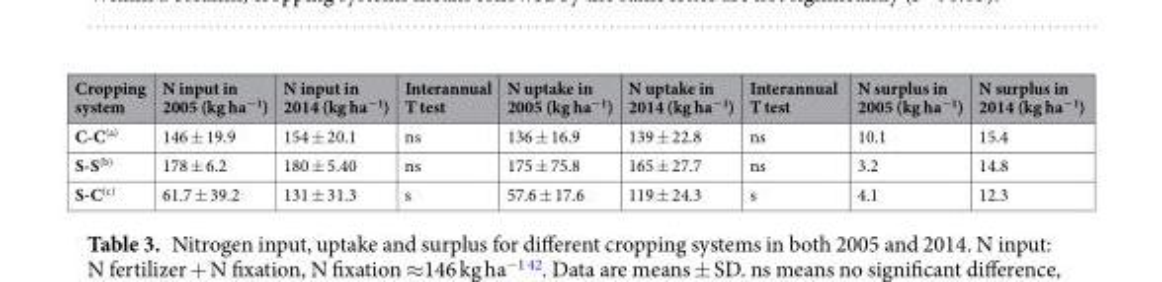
<table><thead><tr><td>Cropping system</td><td>N input in 2005 (kg ha<sup>−1</sup>)</td><td>N input in 2014 (kg ha<sup>−1</sup>)</td><td>Interannual T test</td><td>N uptake in 2005 (kg ha<sup>−1</sup>)</td><td>N uptake in 2014 (kg ha<sup>−1</sup>)</td><td>Interannual T test</td><td>N surplus in 2005 (kg ha<sup>−1</sup>)</td><td>N surplus in 2014 (kg ha<sup>−1</sup>)</td></tr></thead><tbody><tr><td>C-C<sup>(a)</sup></td><td>146 ± 19.9</td><td>154 ± 20.1</td><td>ns</td><td>136 ± 16.9</td><td>139 ± 22.8</td><td>ns</td><td>10.1</td><td>15.4</td></tr><tr><td>S-S<sup>(b)</sup></td><td>178 ± 6.2</td><td>180 ± 5.40</td><td>ns</td><td>175 ± 75.8</td><td>165 ± 27.7</td><td>ns</td><td>3.2</td><td>14.8</td></tr><tr><td>S-C<sup>(c)</sup></td><td>61.7 ± 39.2</td><td>131 ± 31.3</td><td>s</td><td>57.6 ± 17.6</td><td>119 ± 24.3</td><td>s</td><td>4.1</td><td>12.3</td></tr></tbody></table>